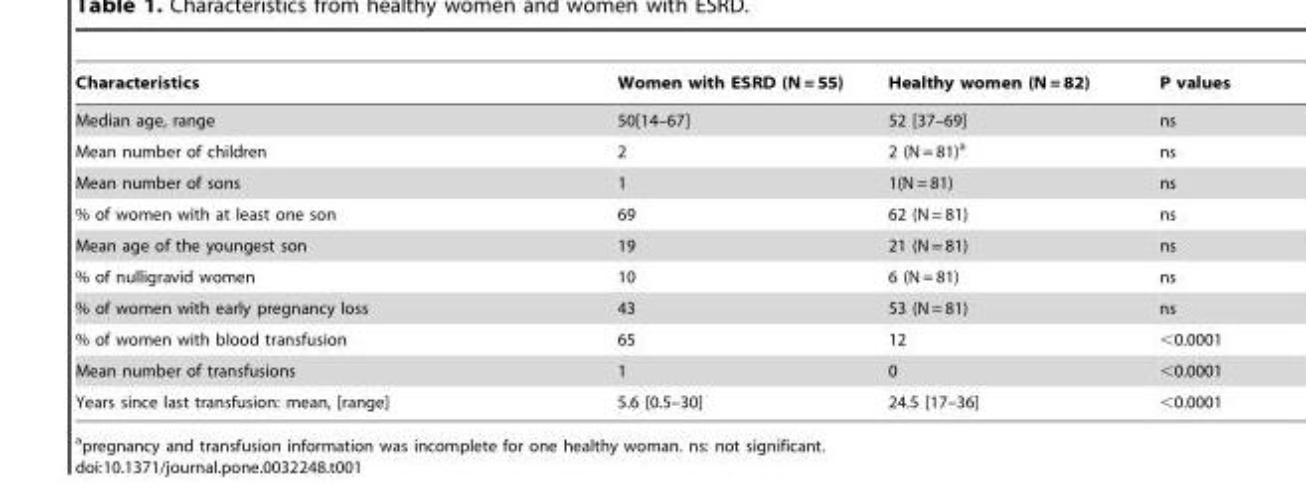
<table><thead><tr><td>Characteristics</td><td>Women with ESRD (N = 55)</td><td>Healthy women (N = 82)</td><td>P values</td></tr></thead><tbody><tr><td>Median age, range</td><td>50[14–67]</td><td>52 [37–69]</td><td>ns</td></tr><tr><td>Mean number of children</td><td>2</td><td>2 (N = 81)<sup>a</sup></td><td>ns</td></tr><tr><td>Mean number of sons</td><td>1</td><td>1(N = 81)</td><td>ns</td></tr><tr><td>% of women with at least one son</td><td>69</td><td>62 (N = 81)</td><td>ns</td></tr><tr><td>Mean age of the youngest son</td><td>19</td><td>21 (N = 81)</td><td>ns</td></tr><tr><td>% of nulligravid women</td><td>10</td><td>6 (N = 81)</td><td>ns</td></tr><tr><td>% of women with early pregnancy loss</td><td>43</td><td>53 (N = 81)</td><td>ns</td></tr><tr><td>% of women with blood transfusion</td><td>65</td><td>12</td><td>&lt;0.0001</td></tr><tr><td>Mean number of transfusions</td><td>1</td><td>0</td><td>&lt;0.0001</td></tr><tr><td>Years since last transfusion: mean, [range]</td><td>5.6 [0.5–30]</td><td>24.5 [17–36]</td><td>&lt;0.0001</td></tr></tbody></table>